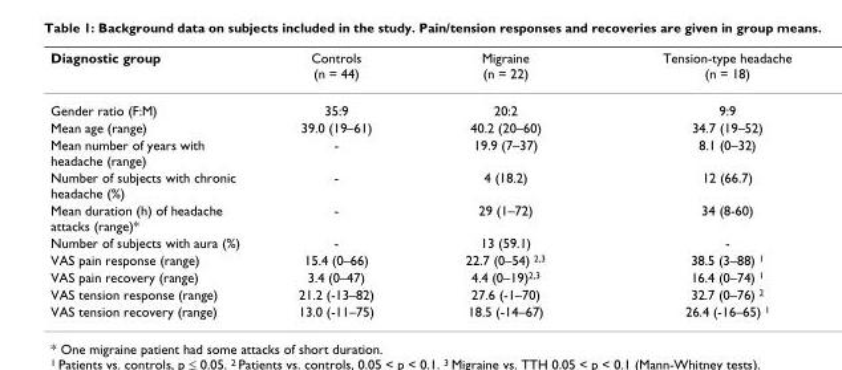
<table><thead><tr><td>Diagnostic group</td><td>Controls (n = 44)</td><td>Migraine (n = 22)</td><td>Tension-type headache (n = 18)</td></tr></thead><tbody><tr><td>Gender ratio (F:M)</td><td>35:9</td><td>20:2</td><td>9:9</td></tr><tr><td>Mean age (range)</td><td>39.0 (19–61)</td><td>40.2 (20–60)</td><td>34.7 (19–52)</td></tr><tr><td>Mean number of years with headache (range)</td><td>-</td><td>19.9 (7–37)</td><td>8.1 (0–32)</td></tr><tr><td>Number of subjects with chronic headache (%)</td><td>-</td><td>4 (18.2)</td><td>12 (66.7)</td></tr><tr><td>Mean duration (h) of headache attacks (range)*</td><td>-</td><td>29 (1–72)</td><td>34 (8-60)</td></tr><tr><td>Number of subjects with aura (%)</td><td>-</td><td>13 (59.1)</td><td>-</td></tr><tr><td>VAS pain response (range)</td><td>15.4 (0–66)</td><td>22.7 (0–54) <sup>2,3</sup></td><td>38.5 (3–88) <sup>1</sup></td></tr><tr><td>VAS pain recovery (range)</td><td>3.4 (0–47)</td><td>4.4 (0–19)<sup>2,3</sup></td><td>16.4 (0–74) <sup>1</sup></td></tr><tr><td>VAS tension response (range)</td><td>21.2 (-13–82)</td><td>27.6 (-1–70)</td><td>32.7 (0–76) <sup>2</sup></td></tr><tr><td>VAS tension recovery (range)</td><td>13.0 (-11–75)</td><td>18.5 (-14–67)</td><td>26.4 (-16–65) <sup>1</sup></td></tr></tbody></table>